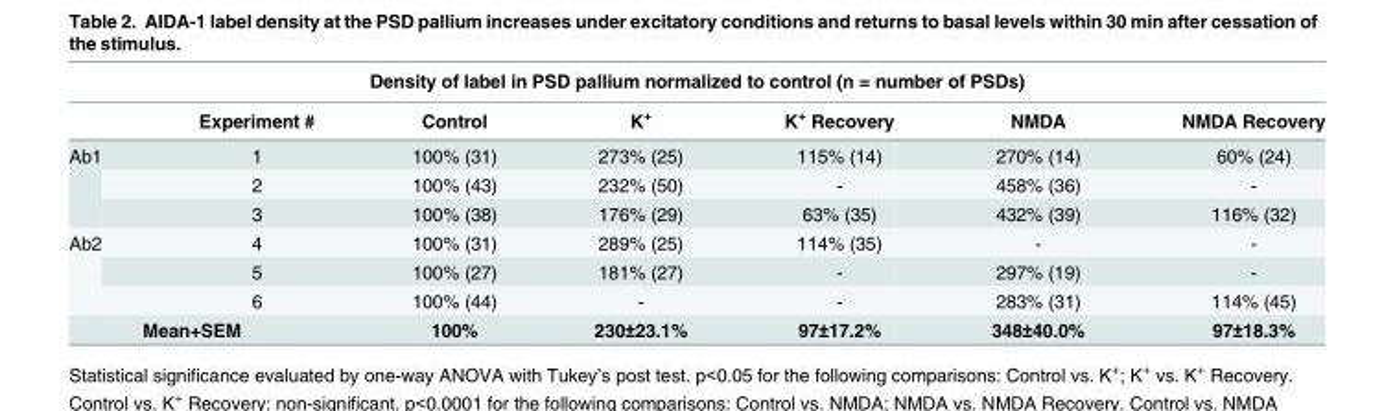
<table><thead><tr><td colspan="7">Density of label in PSD pallium normalized to control (n = number of PSDs)</td></tr><tr><td></td><td>Experiment #</td><td>Control</td><td>K<sup>+</sup></td><td>K<sup>+</sup> Recovery</td><td>NMDA</td><td>NMDA Recovery</td></tr></thead><tbody><tr><td rowspan="3">Ab1</td><td>1</td><td>100% (31)</td><td>273% (25)</td><td>115% (14)</td><td>270% (14)</td><td>60% (24)</td></tr><tr><td>2</td><td>100% (43)</td><td>232% (50)</td><td>-</td><td>458% (36)</td><td>-</td></tr><tr><td>3</td><td>100% (38)</td><td>176% (29)</td><td>63% (35)</td><td>432% (39)</td><td>116% (32)</td></tr><tr><td rowspan="3">Ab2</td><td>4</td><td>100% (31)</td><td>289% (25)</td><td>114% (35)</td><td>-</td><td>-</td></tr><tr><td>5</td><td>100% (27)</td><td>181% (27)</td><td>-</td><td>297% (19)</td><td>-</td></tr><tr><td>6</td><td>100% (44)</td><td>-</td><td>-</td><td>283% (31)</td><td>114% (45)</td></tr><tr><td colspan="2">Mean+SEM</td><td>100%</td><td>230±23.1%</td><td>97±17.2%</td><td>348±40.0%</td><td>97±18.3%</td></tr></tbody></table>